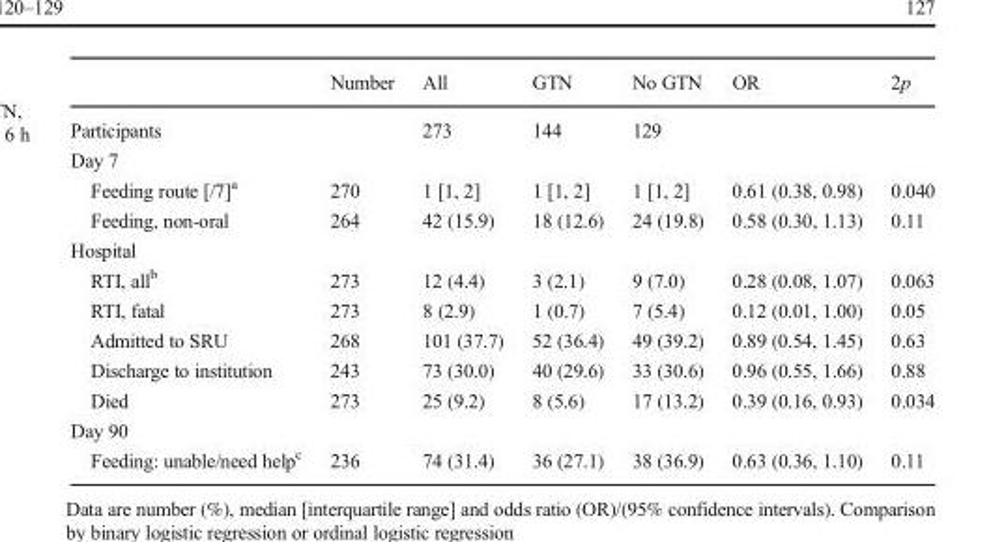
<table><thead><tr><td></td><td>Number</td><td>All</td><td>GTN</td><td>No GTN</td><td>OR</td><td>2p</td></tr></thead><tbody><tr><td>Participants</td><td></td><td>273</td><td>144</td><td>129</td><td></td><td></td></tr><tr><td colspan="7">Day 7</td></tr><tr><td>Feeding route [/7]<sup>a</sup></td><td>270</td><td>1 [1, 2]</td><td>1 [1, 2]</td><td>1 [1, 2]</td><td>0.61 (0.38, 0.98)</td><td>0.040</td></tr><tr><td>Feeding, non-oral</td><td>264</td><td>42 (15.9)</td><td>18 (12.6)</td><td>24 (19.8)</td><td>0.58 (0.30, 1.13)</td><td>0.11</td></tr><tr><td colspan="7">Hospital</td></tr><tr><td>RTI, all<sup>b</sup></td><td>273</td><td>12 (4.4)</td><td>3 (2.1)</td><td>9 (7.0)</td><td>0.28 (0.08, 1.07)</td><td>0.063</td></tr><tr><td>RTI, fatal</td><td>273</td><td>8 (2.9)</td><td>1 (0.7)</td><td>7 (5.4)</td><td>0.12 (0.01, 1.00)</td><td>0.05</td></tr><tr><td>Admitted to SRU</td><td>268</td><td>101 (37.7)</td><td>52 (36.4)</td><td>49 (39.2)</td><td>0.89 (0.54, 1.45)</td><td>0.63</td></tr><tr><td>Discharge to institution</td><td>243</td><td>73 (30.0)</td><td>40 (29.6)</td><td>33 (30.6)</td><td>0.96 (0.55, 1.66)</td><td>0.88</td></tr><tr><td>Died</td><td>273</td><td>25 (9.2)</td><td>8 (5.6)</td><td>17 (13.2)</td><td>0.39 (0.16, 0.93)</td><td>0.034</td></tr><tr><td colspan="7">Day 90</td></tr><tr><td>Feeding: unable/need help<sup>c</sup></td><td>236</td><td>74 (31.4)</td><td>36 (27.1)</td><td>38 (36.9)</td><td>0.63 (0.36, 1.10)</td><td>0.11</td></tr></tbody></table>